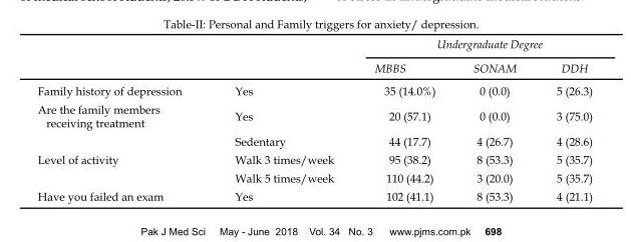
<table><thead><tr><td rowspan="2"></td><td rowspan="2"></td><td colspan="3">Undergraduate Degree</td></tr><tr><td>MBBS</td><td>SONAM</td><td>DDH</td></tr></thead><tbody><tr><td>Family history of depression</td><td>Yes</td><td>35 (14.0%)</td><td>0 (0.0)</td><td>5 (26.3)</td></tr><tr><td>Are the family members receiving treatment</td><td>Yes</td><td>20 (57.1)</td><td>0 (0.0)</td><td>3 (75.0)</td></tr><tr><td rowspan="3">Level of activity</td><td>Sedentary</td><td>44 (17.7)</td><td>4 (26.7)</td><td>4 (28.6)</td></tr><tr><td>Walk 3 times/week</td><td>95 (38.2)</td><td>8 (53.3)</td><td>5 (35.7)</td></tr><tr><td>Walk 5 times/week</td><td>110 (44.2)</td><td>3 (20.0)</td><td>5 (35.7)</td></tr><tr><td>Have you failed an exam</td><td>Yes</td><td>102 (41.1)</td><td>8 (53.3)</td><td>4 (21.1)</td></tr></tbody></table>